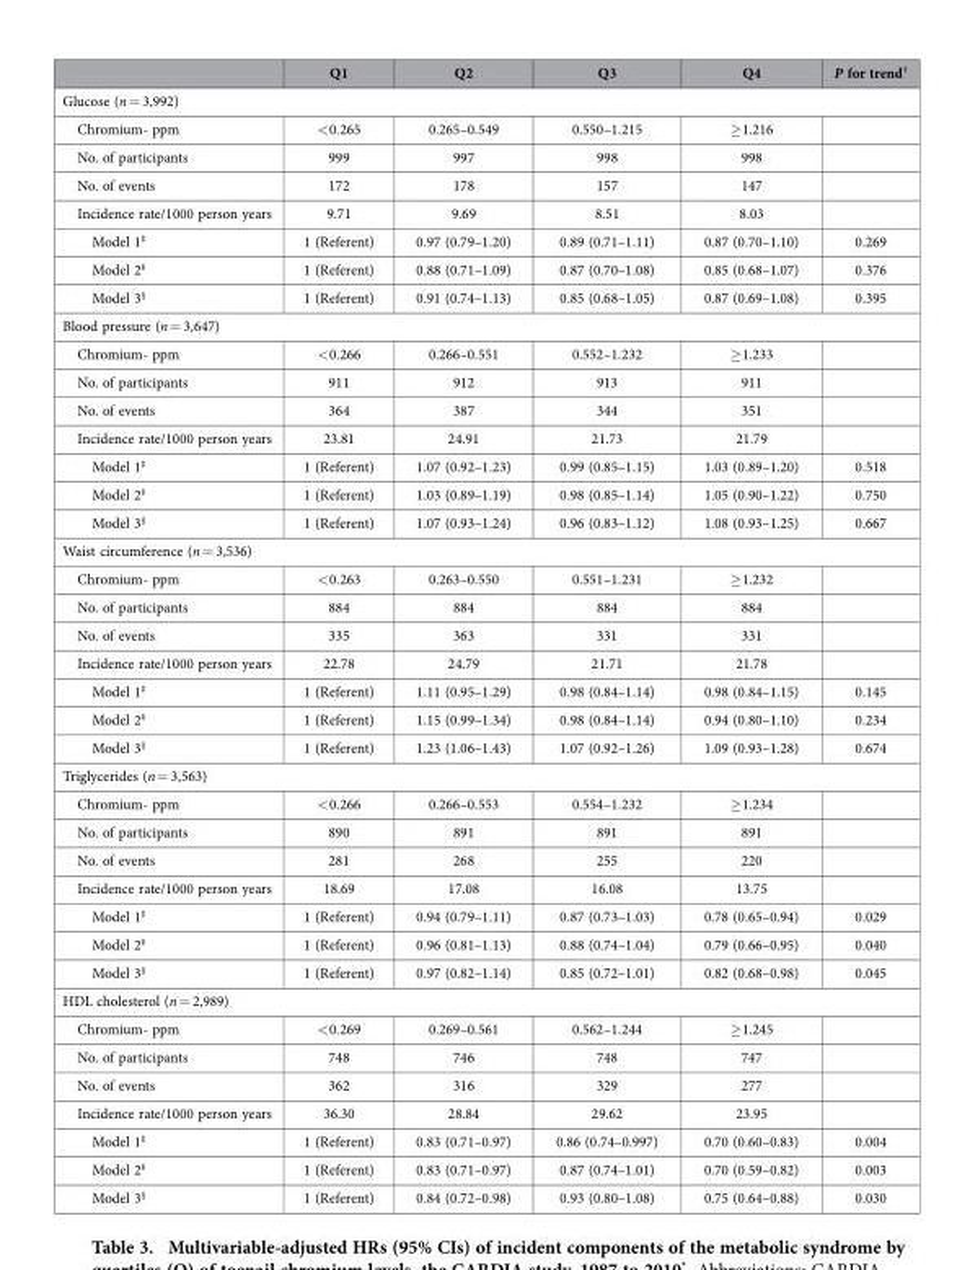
<table><thead><tr><td></td><td>Q1</td><td>Q2</td><td>Q3</td><td>Q4</td><td>P for trend†</td></tr></thead><tbody><tr><td colspan="6">Glucose (n = 3,992)</td></tr><tr><td>Chromium- ppm</td><td>&lt; 0.265</td><td>0.265–0.549</td><td>0.550–1.215</td><td>≥ 1.216</td><td></td></tr><tr><td>No. of participants</td><td>999</td><td>997</td><td>998</td><td>998</td><td></td></tr><tr><td>No. of events</td><td>172</td><td>178</td><td>157</td><td>147</td><td></td></tr><tr><td>Incidence rate/1000 person years</td><td>9.71</td><td>9.69</td><td>8.51</td><td>8.03</td><td></td></tr><tr><td>Model 1‡</td><td>1 (Referent)</td><td>0.97 (0.79–1.20)</td><td>0.89 (0.71–1.11)</td><td>0.87 (0.70–1.10)</td><td>0.269</td></tr><tr><td>Model 2‡</td><td>1 (Referent)</td><td>0.88 (0.71–1.09)</td><td>0.87 (0.70–1.08)</td><td>0.85 (0.68–1.07)</td><td>0.376</td></tr><tr><td>Model 3§</td><td>1 (Referent)</td><td>0.91 (0.74–1.13)</td><td>0.85 (0.68–1.05)</td><td>0.87 (0.69–1.08)</td><td>0.395</td></tr><tr><td colspan="6">Blood pressure (n = 3,647)</td></tr><tr><td>Chromium- ppm</td><td>&lt; 0.266</td><td>0.266–0.551</td><td>0.552–1.232</td><td>≥ 1.233</td><td></td></tr><tr><td>No. of participants</td><td>911</td><td>912</td><td>913</td><td>911</td><td></td></tr><tr><td>No. of events</td><td>364</td><td>387</td><td>344</td><td>351</td><td></td></tr><tr><td>Incidence rate/1000 person years</td><td>23.81</td><td>24.91</td><td>21.73</td><td>21.79</td><td></td></tr><tr><td>Model 1‡</td><td>1 (Referent)</td><td>1.07 (0.92–1.23)</td><td>0.99 (0.85–1.15)</td><td>1.03 (0.89–1.20)</td><td>0.518</td></tr><tr><td>Model 2‡</td><td>1 (Referent)</td><td>1.03 (0.89–1.19)</td><td>0.98 (0.85–1.14)</td><td>1.05 (0.90–1.22)</td><td>0.750</td></tr><tr><td>Model 3§</td><td>1 (Referent)</td><td>1.07 (0.93–1.24)</td><td>0.96 (0.83–1.12)</td><td>1.08 (0.93–1.25)</td><td>0.667</td></tr><tr><td colspan="6">Waist circumference (n = 3,536)</td></tr><tr><td>Chromium- ppm</td><td>&lt; 0.263</td><td>0.263–0.550</td><td>0.551–1.231</td><td>≥ 1.232</td><td></td></tr><tr><td>No. of participants</td><td>884</td><td>884</td><td>884</td><td>884</td><td></td></tr><tr><td>No. of events</td><td>335</td><td>363</td><td>331</td><td>331</td><td></td></tr><tr><td>Incidence rate/1000 person years</td><td>22.78</td><td>24.79</td><td>21.71</td><td>21.78</td><td></td></tr><tr><td>Model 1‡</td><td>1 (Referent)</td><td>1.11 (0.95–1.29)</td><td>0.98 (0.84–1.14)</td><td>0.98 (0.84–1.15)</td><td>0.145</td></tr><tr><td>Model 2‡</td><td>1 (Referent)</td><td>1.15 (0.99–1.34)</td><td>0.98 (0.84–1.14)</td><td>0.94 (0.80–1.10)</td><td>0.234</td></tr><tr><td>Model 3§</td><td>1 (Referent)</td><td>1.23 (1.06–1.43)</td><td>1.07 (0.92–1.26)</td><td>1.09 (0.93–1.28)</td><td>0.674</td></tr><tr><td colspan="6">Triglycerides (n = 3,563)</td></tr><tr><td>Chromium- ppm</td><td>&lt; 0.266</td><td>0.266–0.553</td><td>0.554–1.232</td><td>≥ 1.234</td><td></td></tr><tr><td>No. of participants</td><td>890</td><td>891</td><td>891</td><td>891</td><td></td></tr><tr><td>No. of events</td><td>281</td><td>268</td><td>255</td><td>220</td><td></td></tr><tr><td>Incidence rate/1000 person years</td><td>18.69</td><td>17.08</td><td>16.08</td><td>13.75</td><td></td></tr><tr><td>Model 1‡</td><td>1 (Referent)</td><td>0.94 (0.79–1.11)</td><td>0.87 (0.73–1.03)</td><td>0.78 (0.65–0.94)</td><td>0.029</td></tr><tr><td>Model 2‡</td><td>1 (Referent)</td><td>0.96 (0.81–1.13)</td><td>0.88 (0.74–1.04)</td><td>0.79 (0.66–0.95)</td><td>0.040</td></tr><tr><td>Model 3§</td><td>1 (Referent)</td><td>0.97 (0.82–1.14)</td><td>0.85 (0.72–1.01)</td><td>0.82 (0.68–0.98)</td><td>0.045</td></tr><tr><td colspan="6">HDL cholesterol (n = 2,989)</td></tr><tr><td>Chromium- ppm</td><td>&lt; 0.269</td><td>0.269–0.561</td><td>0.562–1.244</td><td>≥ 1.245</td><td></td></tr><tr><td>No. of participants</td><td>748</td><td>746</td><td>748</td><td>747</td><td></td></tr><tr><td>No. of events</td><td>362</td><td>316</td><td>329</td><td>277</td><td></td></tr><tr><td>Incidence rate/1000 person years</td><td>36.30</td><td>28.84</td><td>29.62</td><td>23.95</td><td></td></tr><tr><td>Model 1‡</td><td>1 (Referent)</td><td>0.83 (0.71–0.97)</td><td>0.86 (0.74–0.997)</td><td>0.70 (0.60–0.83)</td><td>0.004</td></tr><tr><td>Model 2‡</td><td>1 (Referent)</td><td>0.83 (0.71–0.97)</td><td>0.87 (0.74–1.01)</td><td>0.70 (0.59–0.82)</td><td>0.003</td></tr><tr><td>Model 3§</td><td>1 (Referent)</td><td>0.84 (0.72–0.98)</td><td>0.93 (0.80–1.08)</td><td>0.75 (0.64–0.88)</td><td>0.030</td></tr></tbody></table>